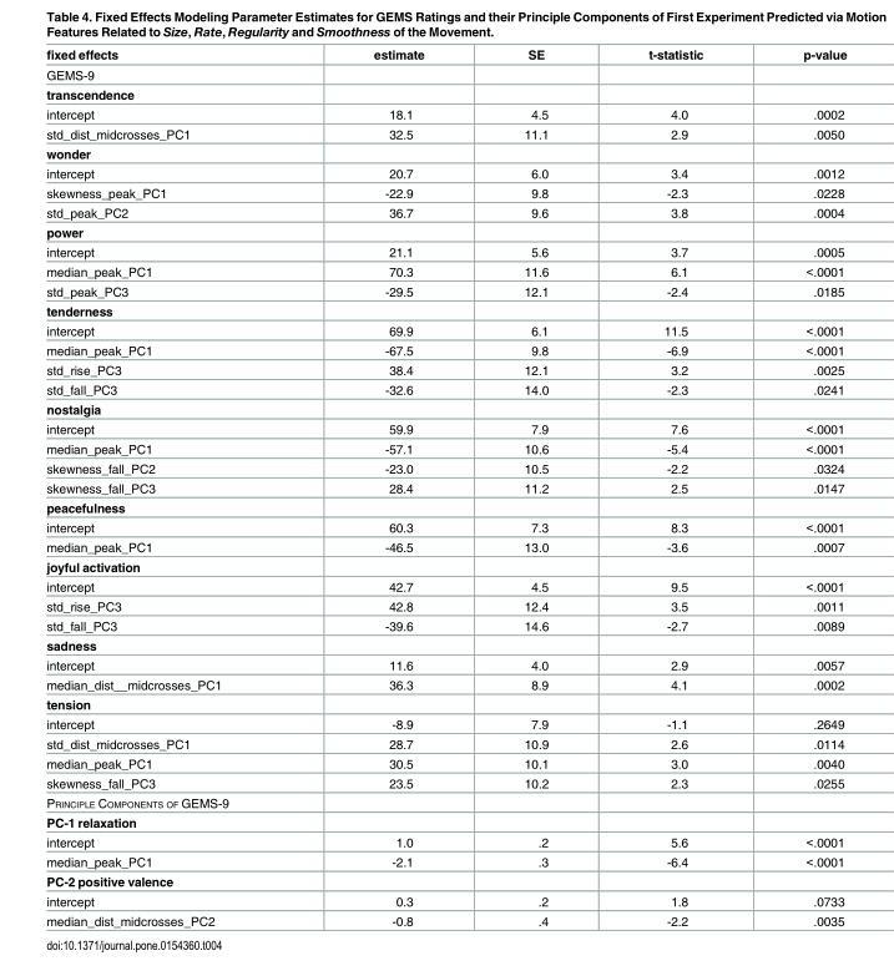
<table><thead><tr><td>fixed effects</td><td>estimate</td><td>SE</td><td>t-statistic</td><td>p-value</td></tr></thead><tbody><tr><td colspan="5">GEMS-9</td></tr><tr><td colspan="5">transcendence</td></tr><tr><td>intercept</td><td>18.1</td><td>4.5</td><td>4.0</td><td>.0002</td></tr><tr><td>std_dist_midcrosses_PC1</td><td>32.5</td><td>11.1</td><td>2.9</td><td>.0050</td></tr><tr><td colspan="5">wonder</td></tr><tr><td>intercept</td><td>20.7</td><td>6.0</td><td>3.4</td><td>.0012</td></tr><tr><td>skewness_peak_PC1</td><td>-22.9</td><td>9.8</td><td>-2.3</td><td>.0228</td></tr><tr><td>std_peak_PC2</td><td>36.7</td><td>9.6</td><td>3.8</td><td>.0004</td></tr><tr><td colspan="5">power</td></tr><tr><td>intercept</td><td>21.1</td><td>5.6</td><td>3.7</td><td>.0005</td></tr><tr><td>median_peak_PC1</td><td>70.3</td><td>11.6</td><td>6.1</td><td>&lt;.0001</td></tr><tr><td>std_peak_PC3</td><td>-29.5</td><td>12.1</td><td>-2.4</td><td>.0185</td></tr><tr><td colspan="5">tenderness</td></tr><tr><td>intercept</td><td>69.9</td><td>6.1</td><td>11.5</td><td>&lt;.0001</td></tr><tr><td>median_peak_PC1</td><td>-67.5</td><td>9.8</td><td>-6.9</td><td>&lt;.0001</td></tr><tr><td>std_rise_PC3</td><td>38.4</td><td>12.1</td><td>3.2</td><td>.0025</td></tr><tr><td>std_fall_PC3</td><td>-32.6</td><td>14.0</td><td>-2.3</td><td>.0241</td></tr><tr><td colspan="5">nostalgia</td></tr><tr><td>intercept</td><td>59.9</td><td>7.9</td><td>7.6</td><td>&lt;.0001</td></tr><tr><td>median_peak_PC1</td><td>-57.1</td><td>10.6</td><td>-5.4</td><td>&lt;.0001</td></tr><tr><td>skewness_fall_PC2</td><td>-23.0</td><td>10.5</td><td>-2.2</td><td>.0324</td></tr><tr><td>skewness_fall_PC3</td><td>28.4</td><td>11.2</td><td>2.5</td><td>.0147</td></tr><tr><td colspan="5">peacefulness</td></tr><tr><td>intercept</td><td>60.3</td><td>7.3</td><td>8.3</td><td>&lt;.0001</td></tr><tr><td>median_peak_PC1</td><td>-46.5</td><td>13.0</td><td>-3.6</td><td>.0007</td></tr><tr><td colspan="5">joyful activation</td></tr><tr><td>intercept</td><td>42.7</td><td>4.5</td><td>9.5</td><td>&lt;.0001</td></tr><tr><td>std_rise_PC3</td><td>42.8</td><td>12.4</td><td>3.5</td><td>.0011</td></tr><tr><td>std_fall_PC3</td><td>-39.6</td><td>14.6</td><td>-2.7</td><td>.0089</td></tr><tr><td colspan="5">sadness</td></tr><tr><td>intercept</td><td>11.6</td><td>4.0</td><td>2.9</td><td>.0057</td></tr><tr><td>median_dist__midcrosses_PC1</td><td>36.3</td><td>8.9</td><td>4.1</td><td>.0002</td></tr><tr><td colspan="5">tension</td></tr><tr><td>intercept</td><td>-8.9</td><td>7.9</td><td>-1.1</td><td>.2649</td></tr><tr><td>std_dist_midcrosses_PC1</td><td>28.7</td><td>10.9</td><td>2.6</td><td>.0114</td></tr><tr><td>median_peak_PC1</td><td>30.5</td><td>10.1</td><td>3.0</td><td>.0040</td></tr><tr><td>skewness_fall_PC3</td><td>23.5</td><td>10.2</td><td>2.3</td><td>.0255</td></tr><tr><td colspan="5">PRINCIPLE COMPONENTS OF GEMS-9</td></tr><tr><td colspan="5">PC-1 relaxation</td></tr><tr><td>intercept</td><td>1.0</td><td>.2</td><td>5.6</td><td>&lt;.0001</td></tr><tr><td>median_peak_PC1</td><td>-2.1</td><td>.3</td><td>-6.4</td><td>&lt;.0001</td></tr><tr><td colspan="5">PC-2 positive valence</td></tr><tr><td>intercept</td><td>0.3</td><td>.2</td><td>1.8</td><td>.0733</td></tr><tr><td>median_dist_midcrosses_PC2</td><td>-0.8</td><td>.4</td><td>-2.2</td><td>.0035</td></tr></tbody></table>